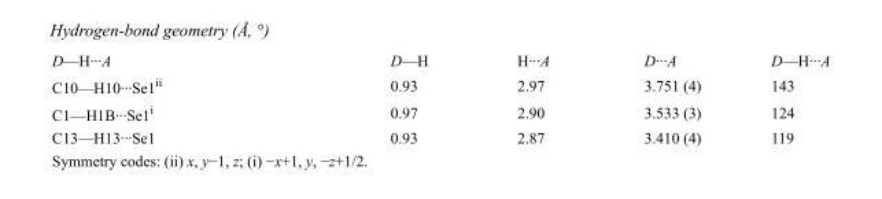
<table><tbody><tr><td>D—H···A</td><td>D—H</td><td>H···A</td><td>D···A</td><td>D—H···A</td></tr><tr><td>C10—H10···Se1<sup>ii</sup></td><td>0.93</td><td>2.97</td><td>3.751 (4)</td><td>143</td></tr><tr><td>C1—H1B···Se1<sup>i</sup></td><td>0.97</td><td>2.90</td><td>3.533 (3)</td><td>124</td></tr><tr><td>C13—H13···Se1</td><td>0.93</td><td>2.87</td><td>3.410 (4)</td><td>119</td></tr></tbody></table>